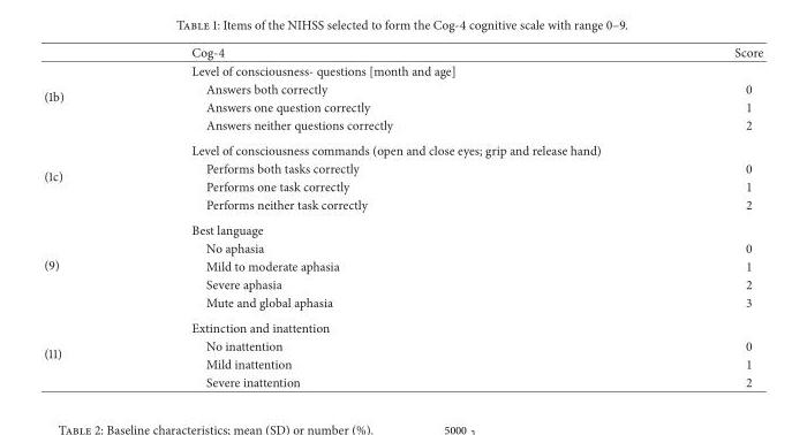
<table><thead><tr><td></td><td>Cog-4</td><td>Score</td></tr></thead><tbody><tr><td rowspan="4">(1b)</td><td>Level of consciousness- questions [month and age]</td><td></td></tr><tr><td>Answers both correctly</td><td>0</td></tr><tr><td>Answers one question correctly</td><td>1</td></tr><tr><td>Answers neither questions correctly</td><td>2</td></tr><tr><td rowspan="4">(1c)</td><td>Level of consciousness commands (open and close eyes; grip and release hand)</td><td></td></tr><tr><td>Performs both tasks correctly</td><td>0</td></tr><tr><td>Performs one task correctly</td><td>1</td></tr><tr><td>Performs neither task correctly</td><td>2</td></tr><tr><td rowspan="5">(9)</td><td>Best language</td><td></td></tr><tr><td>No aphasia</td><td>0</td></tr><tr><td>Mild to moderate aphasia</td><td>1</td></tr><tr><td>Severe aphasia</td><td>2</td></tr><tr><td>Mute and global aphasia</td><td>3</td></tr><tr><td rowspan="4">(11)</td><td>Extinction and inattention</td><td></td></tr><tr><td>No inattention</td><td>0</td></tr><tr><td>Mild inattention</td><td>1</td></tr><tr><td>Severe inattention</td><td>2</td></tr></tbody></table>